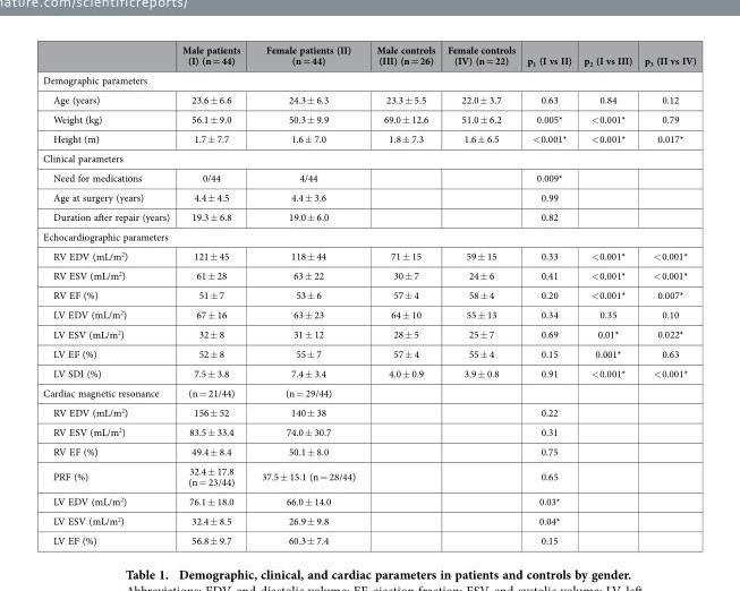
<table><thead><tr><td></td><td>Male patients (I) (n = 44)</td><td>Female patients (II) (n = 44)</td><td>Male controls (III) (n = 26)</td><td>Female controls (IV) (n = 22)</td><td>p<sub>1</sub> (I vs II)</td><td>p<sub>2</sub> (I vs III)</td><td>p<sub>3</sub> (II vs IV)</td></tr></thead><tbody><tr><td colspan="8">Demographic parameters</td></tr><tr><td>Age (years)</td><td>23.6 ± 6.6</td><td>24.3 ± 6.3</td><td>23.3 ± 5.5</td><td>22.0 ± 3.7</td><td>0.63</td><td>0.84</td><td>0.12</td></tr><tr><td>Weight (kg)</td><td>56.1 ± 9.0</td><td>50.3 ± 9.9</td><td>69.0 ± 12.6</td><td>51.0 ± 6.2</td><td>0.005*</td><td>&lt; 0.001*</td><td>0.79</td></tr><tr><td>Height (m)</td><td>1.7 ± 7.7</td><td>1.6 ± 7.0</td><td>1.8 ± 7.3</td><td>1.6 ± 6.5</td><td>&lt; 0.001*</td><td>&lt; 0.001*</td><td>0.017*</td></tr><tr><td colspan="8">Clinical parameters</td></tr><tr><td>Need for medications</td><td>0/44</td><td>4/44</td><td></td><td></td><td>0.009*</td><td></td><td></td></tr><tr><td>Age at surgery (years)</td><td>4.4 ± 4.5</td><td>4.4 ± 3.6</td><td></td><td></td><td>0.99</td><td></td><td></td></tr><tr><td>Duration after repair (years)</td><td>19.3 ± 6.8</td><td>19.0 ± 6.0</td><td></td><td></td><td>0.82</td><td></td><td></td></tr><tr><td colspan="8">Echocardiographic parameters</td></tr><tr><td>RV EDV (mL/m<sup>2</sup>)</td><td>121 ± 45</td><td>118 ± 44</td><td>71 ± 15</td><td>59 ± 15</td><td>0.33</td><td>&lt; 0.001*</td><td>&lt; 0.001*</td></tr><tr><td>RV ESV (mL/m<sup>2</sup>)</td><td>61 ± 28</td><td>63 ± 22</td><td>30 ± 7</td><td>24 ± 6</td><td>0.41</td><td>&lt; 0.001*</td><td>&lt; 0.001*</td></tr><tr><td>RV EF (%)</td><td>51 ± 7</td><td>53 ± 6</td><td>57 ± 4</td><td>58 ± 4</td><td>0.20</td><td>&lt; 0.001*</td><td>0.007*</td></tr><tr><td>LV EDV (mL/m<sup>2</sup>)</td><td>67 ± 16</td><td>63 ± 23</td><td>64 ± 10</td><td>55 ± 13</td><td>0.34</td><td>0.35</td><td>0.10</td></tr><tr><td>LV ESV (mL/m<sup>2</sup>)</td><td>32 ± 8</td><td>31 ± 12</td><td>28 ± 5</td><td>25 ± 7</td><td>0.69</td><td>0.01*</td><td>0.022*</td></tr><tr><td>LV EF (%)</td><td>52 ± 8</td><td>55 ± 7</td><td>57 ± 4</td><td>55 ± 4</td><td>0.15</td><td>0.001*</td><td>0.63</td></tr><tr><td>LV SDI (%)</td><td>7.5 ± 3.8</td><td>7.4 ± 3.4</td><td>4.0 ± 0.9</td><td>3.9 ± 0.8</td><td>0.91</td><td>&lt; 0.001*</td><td>&lt; 0.001*</td></tr><tr><td>Cardiac magnetic resonance</td><td>(n = 21/44)</td><td>(n = 29/44)</td><td></td><td></td><td></td><td></td><td></td></tr><tr><td>RV EDV (mL/m<sup>2</sup>)</td><td>156 ± 52</td><td>140 ± 38</td><td></td><td></td><td>0.22</td><td></td><td></td></tr><tr><td>RV ESV (mL/m<sup>2</sup>)</td><td>83.5 ± 33.4</td><td>74.0 ± 30.7</td><td></td><td></td><td>0.31</td><td></td><td></td></tr><tr><td>RV EF (%)</td><td>49.4 ± 8.4</td><td>50.1 ± 8.0</td><td></td><td></td><td>0.75</td><td></td><td></td></tr><tr><td>PRF (%)</td><td>32.4 ± 17.8 (n = 23/44)</td><td>37.5 ± 15.1 (n = 28/44)</td><td></td><td></td><td>0.65</td><td></td><td></td></tr><tr><td>LV EDV (mL/m<sup>2</sup>)</td><td>76.1 ± 18.0</td><td>66.0 ± 14.0</td><td></td><td></td><td>0.03*</td><td></td><td></td></tr><tr><td>LV ESV (mL/m<sup>2</sup>)</td><td>32.4 ± 8.5</td><td>26.9 ± 9.8</td><td></td><td></td><td>0.04*</td><td></td><td></td></tr><tr><td>LV EF (%)</td><td>56.8 ± 9.7</td><td>60.3 ± 7.4</td><td></td><td></td><td>0.15</td><td></td><td></td></tr></tbody></table>